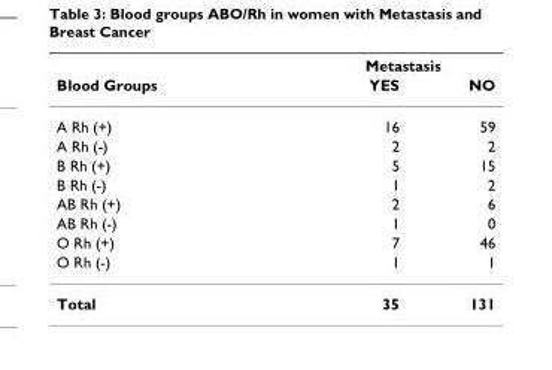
<table><thead><tr><td rowspan="2">Blood Groups</td><td colspan="2">Metastasis</td></tr><tr><td>YES</td><td>NO</td></tr></thead><tbody><tr><td>A Rh (+)</td><td>16</td><td>59</td></tr><tr><td>A Rh (-)</td><td>2</td><td>2</td></tr><tr><td>B Rh (+)</td><td>5</td><td>15</td></tr><tr><td>B Rh (-)</td><td>1</td><td>2</td></tr><tr><td>AB Rh (+)</td><td>2</td><td>6</td></tr><tr><td>AB Rh (-)</td><td>1</td><td>0</td></tr><tr><td>O Rh (+)</td><td>7</td><td>46</td></tr><tr><td>O Rh (-)</td><td>1</td><td>1</td></tr><tr><td>Total</td><td>35</td><td>131</td></tr></tbody></table>